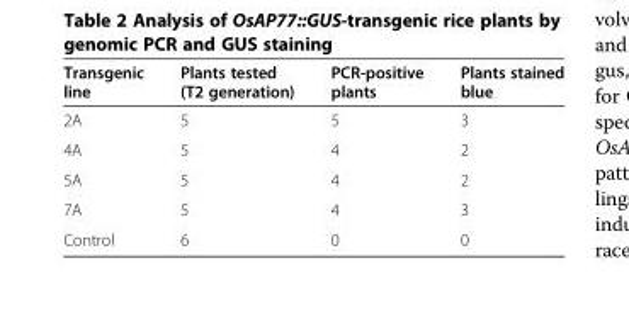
<table><thead><tr><td>Transgenic line</td><td>Plants tested (T2 generation)</td><td>PCR-positive plants</td><td>Plants stained blue</td></tr></thead><tbody><tr><td>2A</td><td>5</td><td>5</td><td>3</td></tr><tr><td>4A</td><td>5</td><td>4</td><td>2</td></tr><tr><td>5A</td><td>5</td><td>4</td><td>2</td></tr><tr><td>7A</td><td>5</td><td>4</td><td>3</td></tr><tr><td>Control</td><td>6</td><td>0</td><td>0</td></tr></tbody></table>